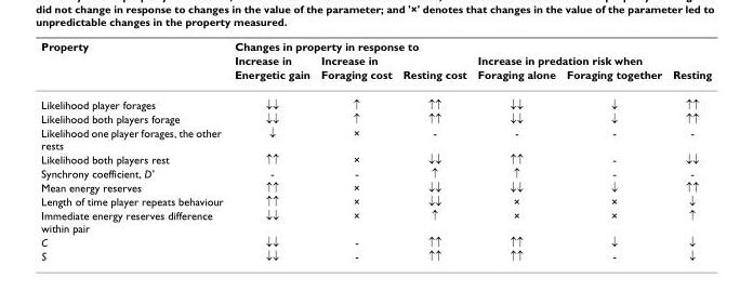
<table><thead><tr><td rowspan="3">Property</td><td colspan="6">Changes in property in response to</td></tr><tr><td rowspan="2">Increase in Energetic gain</td><td colspan="2">Increase in</td><td colspan="3">Increase in predation risk when</td></tr><tr><td>Foraging cost</td><td>Resting cost</td><td>Foraging alone</td><td>Foraging together</td><td>Resting</td></tr></thead><tbody><tr><td>Likelihood player forages</td><td>↓↓</td><td>↑</td><td>↑↑</td><td>↓↓</td><td>↓</td><td>↑↑</td></tr><tr><td>Likelihood both players forage</td><td>↓↓</td><td>↑</td><td>↑↑</td><td>↓↓</td><td>↓</td><td>↑↑</td></tr><tr><td>Likelihood one player forages, the other rests</td><td>↓</td><td>×</td><td>-</td><td>-</td><td>-</td><td>-</td></tr><tr><td>Likelihood both players rest</td><td>↑↑</td><td>×</td><td>↓↓</td><td>↑↑</td><td>-</td><td>↓↓</td></tr><tr><td>Synchrony coefficient, D&#x27;</td><td>-</td><td>-</td><td>↑</td><td>↑</td><td>-</td><td>-</td></tr><tr><td>Mean energy reserves</td><td>↑↑</td><td>×</td><td>↓↓</td><td>↓↓</td><td>↓</td><td>↑↑</td></tr><tr><td>Length of time player repeats behaviour</td><td>↑↑</td><td>×</td><td>↓↓</td><td>×</td><td>×</td><td>↓</td></tr><tr><td>Immediate energy reserves difference within pair</td><td>↓↓</td><td>×</td><td>↑</td><td>×</td><td>×</td><td>↑</td></tr><tr><td>C</td><td>↓↓</td><td>-</td><td>↑↑</td><td>↑↑</td><td>↓</td><td>↓</td></tr><tr><td>S</td><td>↓↓</td><td>-</td><td>↑↑</td><td>↑↑</td><td>-</td><td>↓</td></tr></tbody></table>